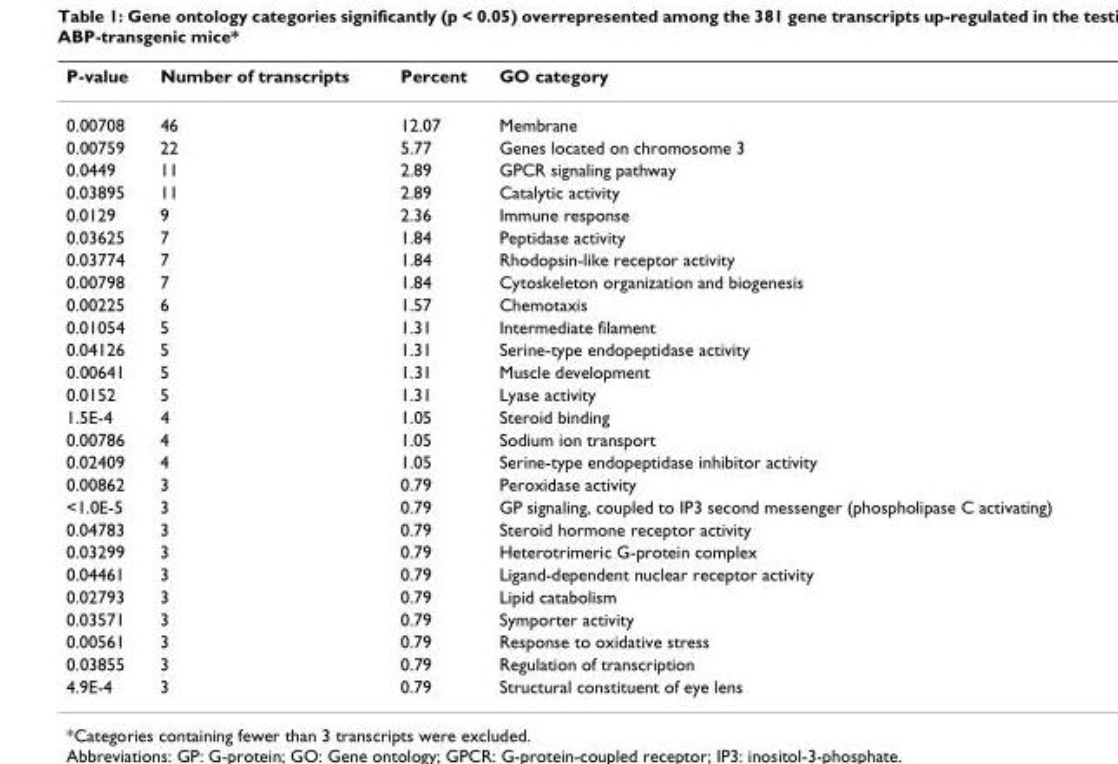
<table><thead><tr><td>P-value</td><td>Number of transcripts</td><td>Percent</td><td>GO category</td></tr></thead><tbody><tr><td>0.00708</td><td>46</td><td>12.07</td><td>Membrane</td></tr><tr><td>0.00759</td><td>22</td><td>5.77</td><td>Genes located on chromosome 3</td></tr><tr><td>0.0449</td><td>11</td><td>2.89</td><td>GPCR signaling pathway</td></tr><tr><td>0.03895</td><td>11</td><td>2.89</td><td>Catalytic activity</td></tr><tr><td>0.0129</td><td>9</td><td>2.36</td><td>Immune response</td></tr><tr><td>0.03625</td><td>7</td><td>1.84</td><td>Peptidase activity</td></tr><tr><td>0.03774</td><td>7</td><td>1.84</td><td>Rhodopsin-like receptor activity</td></tr><tr><td>0.00798</td><td>7</td><td>1.84</td><td>Cytoskeleton organization and biogenesis</td></tr><tr><td>0.00225</td><td>6</td><td>1.57</td><td>Chemotaxis</td></tr><tr><td>0.01054</td><td>5</td><td>1.31</td><td>Intermediate filament</td></tr><tr><td>0.04126</td><td>5</td><td>1.31</td><td>Serine-type endopeptidase activity</td></tr><tr><td>0.00641</td><td>5</td><td>1.31</td><td>Muscle development</td></tr><tr><td>0.0152</td><td>5</td><td>1.31</td><td>Lyase activity</td></tr><tr><td>1.5E-4</td><td>4</td><td>1.05</td><td>Steroid binding</td></tr><tr><td>0.00786</td><td>4</td><td>1.05</td><td>Sodium ion transport</td></tr><tr><td>0.02409</td><td>4</td><td>1.05</td><td>Serine-type endopeptidase inhibitor activity</td></tr><tr><td>0.00862</td><td>3</td><td>0.79</td><td>Peroxidase activity</td></tr><tr><td>&lt;1.0E-5</td><td>3</td><td>0.79</td><td>GP signaling, coupled to IP3 second messenger (phospholipase C activating)</td></tr><tr><td>0.04783</td><td>3</td><td>0.79</td><td>Steroid hormone receptor activity</td></tr><tr><td>0.03299</td><td>3</td><td>0.79</td><td>Heterotrimeric G-protein complex</td></tr><tr><td>0.04461</td><td>3</td><td>0.79</td><td>Ligand-dependent nuclear receptor activity</td></tr><tr><td>0.02793</td><td>3</td><td>0.79</td><td>Lipid catabolism</td></tr><tr><td>0.03571</td><td>3</td><td>0.79</td><td>Symporter activity</td></tr><tr><td>0.00561</td><td>3</td><td>0.79</td><td>Response to oxidative stress</td></tr><tr><td>0.03855</td><td>3</td><td>0.79</td><td>Regulation of transcription</td></tr><tr><td>4.9E-4</td><td>3</td><td>0.79</td><td>Structural constituent of eye lens</td></tr></tbody></table>